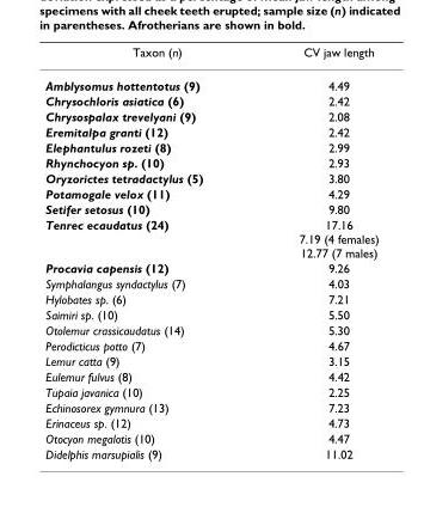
<table><thead><tr><td>Taxon (n)</td><td>CV jaw length</td></tr></thead><tbody><tr><td>Amblysomus hottentotus (9)</td><td>4.49</td></tr><tr><td>Chrysochloris asiatica (6)</td><td>2.42</td></tr><tr><td>Chrysospalax trevelyani (9)</td><td>2.08</td></tr><tr><td>Eremitalpa granti (12)</td><td>2.42</td></tr><tr><td>Elephantulus rozeti (8)</td><td>2.99</td></tr><tr><td>Rhynchocyon sp. (10)</td><td>2.93</td></tr><tr><td>Oryzorictes tetradactylus (5)</td><td>3.80</td></tr><tr><td>Potamogale velox (11)</td><td>4.29</td></tr><tr><td>Setifer setosus (10)</td><td>9.80</td></tr><tr><td>Tenrec ecaudatus (24)</td><td>17.16 7.19 (4 females) 12.77 (7 males)</td></tr><tr><td>Procavia capensis (12)</td><td>9.26</td></tr><tr><td>Symphalangus syndactylus (7)</td><td>4.03</td></tr><tr><td>Hylobates sp. (6)</td><td>7.21</td></tr><tr><td>Saimiri sp. (10)</td><td>5.50</td></tr><tr><td>Otolemur crassicaudatus (14)</td><td>5.30</td></tr><tr><td>Perodicticus potto (7)</td><td>4.67</td></tr><tr><td>Lemur catta (9)</td><td>3.15</td></tr><tr><td>Eulemur fulvus (8)</td><td>4.42</td></tr><tr><td>Tupaia javanica (10)</td><td>2.25</td></tr><tr><td>Echinosorex gymnura (13)</td><td>7.23</td></tr><tr><td>Erinaceus sp. (12)</td><td>4.73</td></tr><tr><td>Otocyon megalotis (10)</td><td>4.47</td></tr><tr><td>Didelphis marsupialis (9)</td><td>11.02</td></tr></tbody></table>